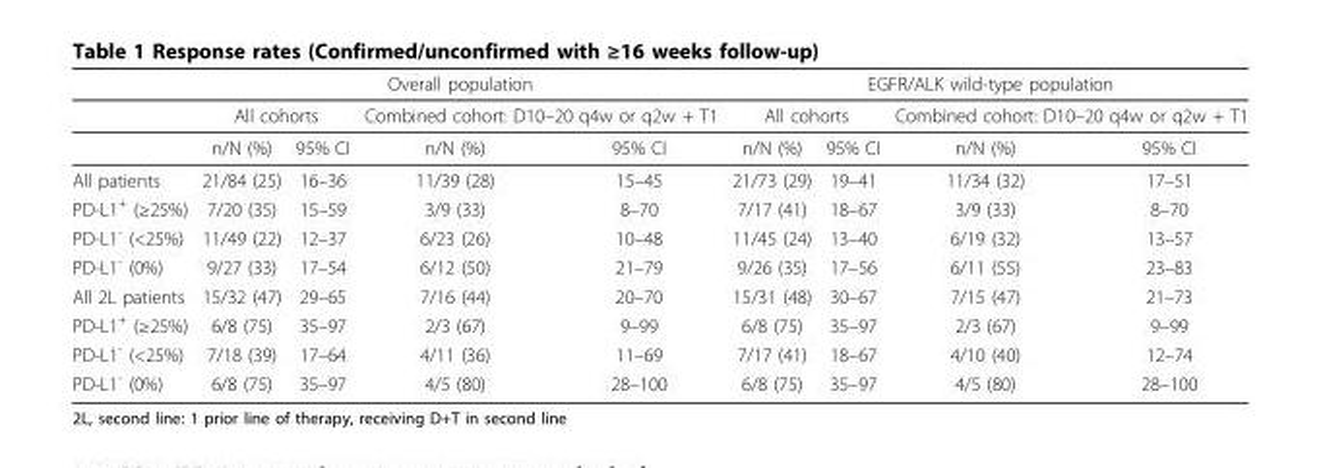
<table><thead><tr><td rowspan="3"></td><td colspan="4">Overall population</td><td colspan="4">EGFR/ALK wild-type population</td></tr><tr><td colspan="2">All cohorts</td><td colspan="2">Combined cohort: D10–20 q4w or q2w + T1</td><td colspan="2">All cohorts</td><td colspan="2">Combined cohort: D10–20 q4w or q2w + T1</td></tr><tr><td>n/N (%)</td><td>95% CI</td><td>n/N (%)</td><td>95% CI</td><td>n/N (%)</td><td>95% CI</td><td>n/N (%)</td><td>95% CI</td></tr></thead><tbody><tr><td>All patients</td><td>21/84 (25)</td><td>16–36</td><td>11/39 (28)</td><td>15–45</td><td>21/73 (29)</td><td>19–41</td><td>11/34 (32)</td><td>17–51</td></tr><tr><td>PD-L1<sup>+</sup> (≥25%)</td><td>7/20 (35)</td><td>15–59</td><td>3/9 (33)</td><td>8–70</td><td>7/17 (41)</td><td>18–67</td><td>3/9 (33)</td><td>8–70</td></tr><tr><td>PD-L1<sup>-</sup> (&lt;25%)</td><td>11/49 (22)</td><td>12–37</td><td>6/23 (26)</td><td>10–48</td><td>11/45 (24)</td><td>13–40</td><td>6/19 (32)</td><td>13–57</td></tr><tr><td>PD-L1<sup>-</sup> (0%)</td><td>9/27 (33)</td><td>17–54</td><td>6/12 (50)</td><td>21–79</td><td>9/26 (35)</td><td>17–56</td><td>6/11 (55)</td><td>23–83</td></tr><tr><td>All 2L patients</td><td>15/32 (47)</td><td>29–65</td><td>7/16 (44)</td><td>20–70</td><td>15/31 (48)</td><td>30–67</td><td>7/15 (47)</td><td>21–73</td></tr><tr><td>PD-L1<sup>+</sup> (≥25%)</td><td>6/8 (75)</td><td>35–97</td><td>2/3 (67)</td><td>9–99</td><td>6/8 (75)</td><td>35–97</td><td>2/3 (67)</td><td>9–99</td></tr><tr><td>PD-L1<sup>-</sup> (&lt;25%)</td><td>7/18 (39)</td><td>17–64</td><td>4/11 (36)</td><td>11–69</td><td>7/17 (41)</td><td>18–67</td><td>4/10 (40)</td><td>12–74</td></tr><tr><td>PD-L1<sup>-</sup> (0%)</td><td>6/8 (75)</td><td>35–97</td><td>4/5 (80)</td><td>28–100</td><td>6/8 (75)</td><td>35–97</td><td>4/5 (80)</td><td>28–100</td></tr></tbody></table>